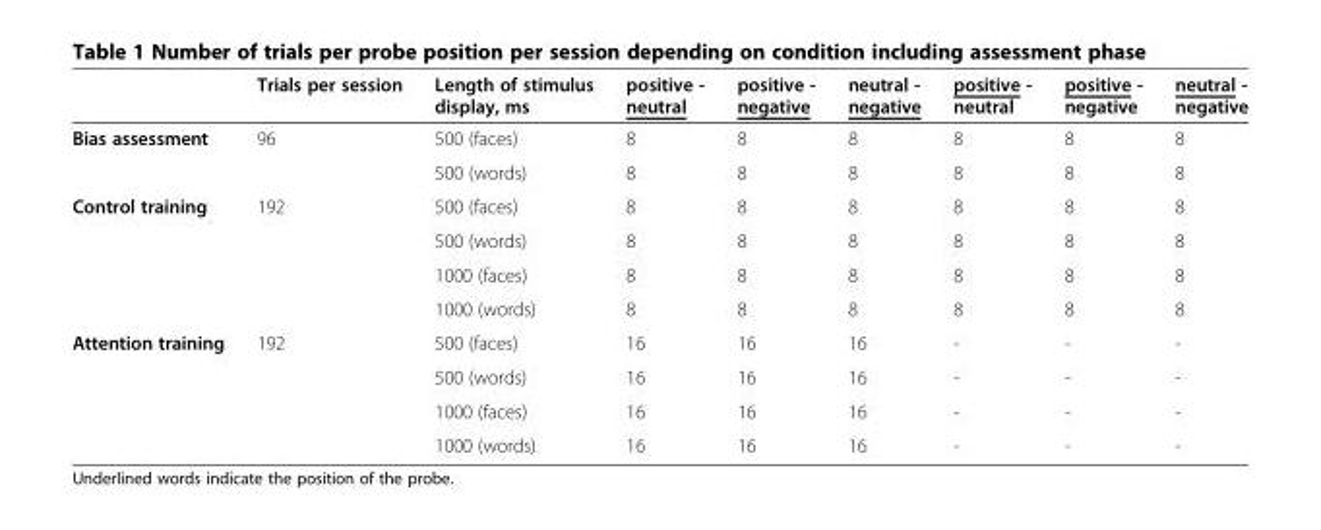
<table><thead><tr><td></td><td>Trials per session</td><td>Length of stimulus display, ms</td><td>positive - neutral</td><td>positive - negative</td><td>neutral - negative</td><td>positive - neutral</td><td>positive - negative</td><td>neutral - negative</td></tr></thead><tbody><tr><td rowspan="2">Bias assessment</td><td>96</td><td>500 (faces)</td><td>8</td><td>8</td><td>8</td><td>8</td><td>8</td><td>8</td></tr><tr><td></td><td>500 (words)</td><td>8</td><td>8</td><td>8</td><td>8</td><td>8</td><td>8</td></tr><tr><td rowspan="4">Control training</td><td>192</td><td>500 (faces)</td><td>8</td><td>8</td><td>8</td><td>8</td><td>8</td><td>8</td></tr><tr><td></td><td>500 (words)</td><td>8</td><td>8</td><td>8</td><td>8</td><td>8</td><td>8</td></tr><tr><td></td><td>1000 (faces)</td><td>8</td><td>8</td><td>8</td><td>8</td><td>8</td><td>8</td></tr><tr><td></td><td>1000 (words)</td><td>8</td><td>8</td><td>8</td><td>8</td><td>8</td><td>8</td></tr><tr><td rowspan="4">Attention training</td><td>192</td><td>500 (faces)</td><td>16</td><td>16</td><td>16</td><td>-</td><td>-</td><td>-</td></tr><tr><td></td><td>500 (words)</td><td>16</td><td>16</td><td>16</td><td>-</td><td>-</td><td>-</td></tr><tr><td></td><td>1000 (faces)</td><td>16</td><td>16</td><td>16</td><td>-</td><td>-</td><td>-</td></tr><tr><td></td><td>1000 (words)</td><td>16</td><td>16</td><td>16</td><td>-</td><td>-</td><td>-</td></tr></tbody></table>